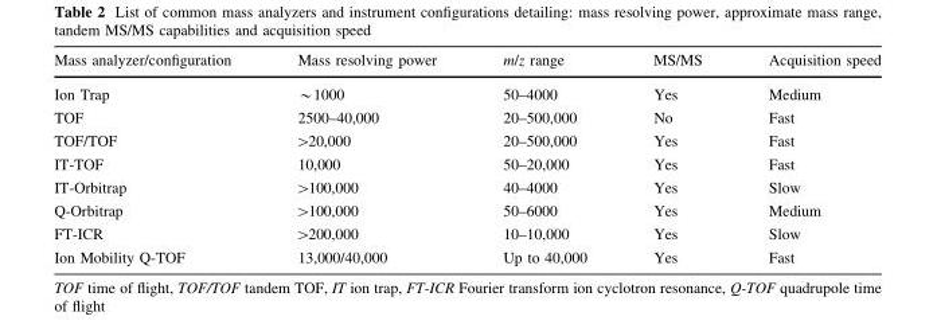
<table><thead><tr><td>Mass analyzer/configuration</td><td>Mass resolving power</td><td>m/z range</td><td>MS/MS</td><td>Acquisition speed</td></tr></thead><tbody><tr><td>Ion Trap</td><td>*1000</td><td>50–4000</td><td>Yes</td><td>Medium</td></tr><tr><td>TOF</td><td>2500–40,000</td><td>20–500,000</td><td>No</td><td>Fast</td></tr><tr><td>TOF/TOF</td><td>&gt;20,000</td><td>20–500,000</td><td>Yes</td><td>Fast</td></tr><tr><td>IT-TOF</td><td>10,000</td><td>50–20,000</td><td>Yes</td><td>Fast</td></tr><tr><td>IT-Orbitrap</td><td>&gt;100,000</td><td>40–4000</td><td>Yes</td><td>Slow</td></tr><tr><td>Q-Orbitrap</td><td>&gt;100,000</td><td>50–6000</td><td>Yes</td><td>Medium</td></tr><tr><td>FT-ICR</td><td>&gt;200,000</td><td>10–10,000</td><td>Yes</td><td>Slow</td></tr><tr><td>Ion Mobility Q-TOF</td><td>13,000/40,000</td><td>Up to 40,000</td><td>Yes</td><td>Fast</td></tr></tbody></table>